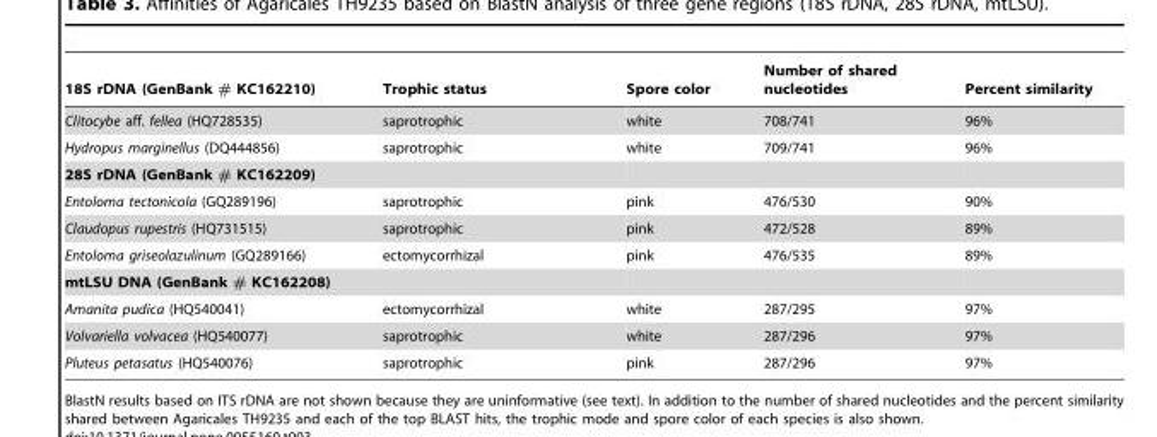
<table><thead><tr><td>18S rDNA (GenBank # KC162210)</td><td>Trophic status</td><td>Spore color</td><td>Number of shared nucleotides</td><td>Percent similarity</td></tr></thead><tbody><tr><td>Clitocybe aff. fellea (HQ728535)</td><td>saprotrophic</td><td>white</td><td>708/741</td><td>96%</td></tr><tr><td>Hydropus marginellus (DQ444856)</td><td>saprotrophic</td><td>white</td><td>709/741</td><td>96%</td></tr><tr><td colspan="5">28S rDNA (GenBank # KC162209)</td></tr><tr><td>Entoloma tectonicola (GQ289196)</td><td>saprotrophic</td><td>pink</td><td>476/530</td><td>90%</td></tr><tr><td>Claudopus rupestris (HQ731515)</td><td>saprotrophic</td><td>pink</td><td>472/528</td><td>89%</td></tr><tr><td>Entoloma griseolazulinum (GQ289166)</td><td>ectomycorrhizal</td><td>pink</td><td>476/535</td><td>89%</td></tr><tr><td colspan="5">mtLSU DNA (GenBank # KC162208)</td></tr><tr><td>Amanita pudica (HQ540041)</td><td>ectomycorrhizal</td><td>white</td><td>287/295</td><td>97%</td></tr><tr><td>Volvariella volvacea (HQ540077)</td><td>saprotrophic</td><td>white</td><td>287/296</td><td>97%</td></tr><tr><td>Pluteus petasatus (HQ540076)</td><td>saprotrophic</td><td>pink</td><td>287/296</td><td>97%</td></tr></tbody></table>